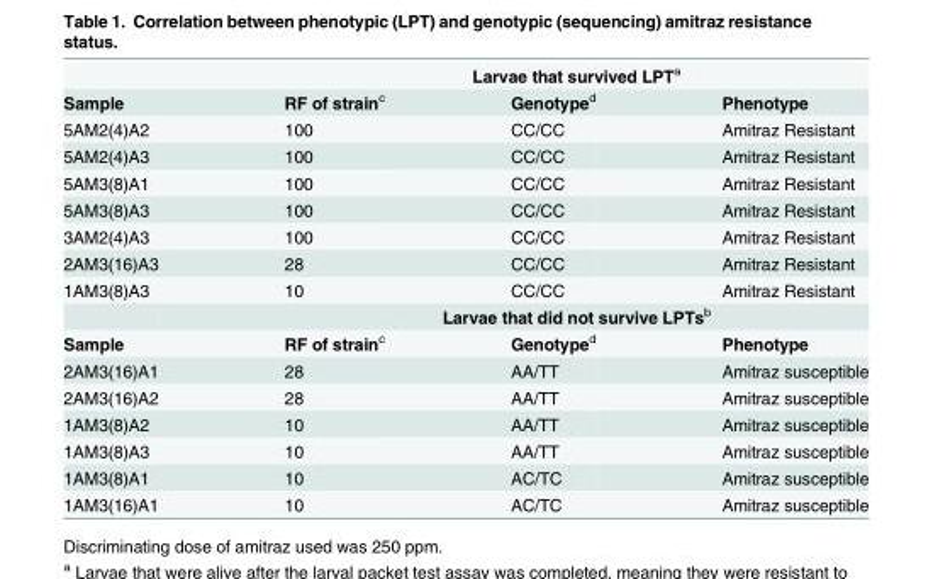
<table><thead><tr><td rowspan="2">Sample</td><td colspan="3">Larvae that survived LPT<sup>a</sup></td></tr><tr><td>RF of strain<sup>c</sup></td><td>Genotype<sup>d</sup></td><td>Phenotype</td></tr></thead><tbody><tr><td>5AM2(4)A2</td><td>100</td><td>CC/CC</td><td>Amitraz Resistant</td></tr><tr><td>5AM2(4)A3</td><td>100</td><td>CC/CC</td><td>Amitraz Resistant</td></tr><tr><td>5AM3(8)A1</td><td>100</td><td>CC/CC</td><td>Amitraz Resistant</td></tr><tr><td>5AM3(8)A3</td><td>100</td><td>CC/CC</td><td>Amitraz Resistant</td></tr><tr><td>3AM2(4)A3</td><td>100</td><td>CC/CC</td><td>Amitraz Resistant</td></tr><tr><td>2AM3(16)A3</td><td>28</td><td>CC/CC</td><td>Amitraz Resistant</td></tr><tr><td rowspan="2">1AM3(8)A3</td><td>10</td><td>CC/CC</td><td>Amitraz Resistant</td></tr><tr><td colspan="3">Larvae that did not survive LPTs<sup>b</sup></td></tr><tr><td>Sample</td><td>RF of strain<sup>c</sup></td><td>Genotype<sup>d</sup></td><td>Phenotype</td></tr><tr><td>2AM3(16)A1</td><td>28</td><td>AA/TT</td><td>Amitraz susceptible</td></tr><tr><td>2AM3(16)A2</td><td>28</td><td>AA/TT</td><td>Amitraz susceptible</td></tr><tr><td>1AM3(8)A2</td><td>10</td><td>AA/TT</td><td>Amitraz susceptible</td></tr><tr><td>1AM3(8)A3</td><td>10</td><td>AA/TT</td><td>Amitraz susceptible</td></tr><tr><td>1AM3(8)A1</td><td>10</td><td>AC/TC</td><td>Amitraz susceptible</td></tr><tr><td>1AM3(16)A1</td><td>10</td><td>AC/TC</td><td>Amitraz susceptible</td></tr></tbody></table>